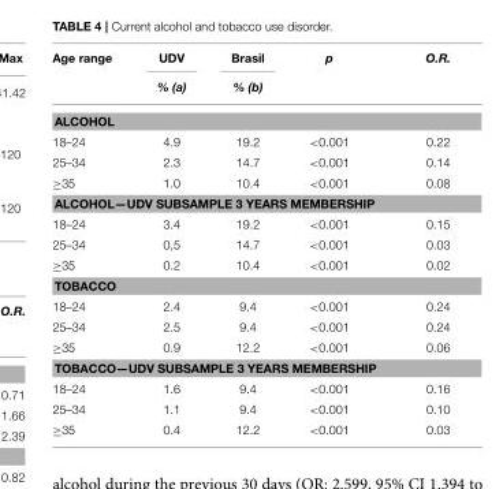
<table><thead><tr><td rowspan="2">Age range</td><td rowspan="2">UDV % (a)</td><td rowspan="2">Brasil % (b)</td><td rowspan="2">p</td><td rowspan="2">O.R.</td></tr><tr></tr></thead><tbody><tr><td colspan="5">ALCOHOL</td></tr><tr><td>18–24</td><td>4.9</td><td>19.2</td><td>&lt;0.001</td><td>0.22</td></tr><tr><td>25–34</td><td>2.3</td><td>14.7</td><td>&lt;0.001</td><td>0.14</td></tr><tr><td>≥35</td><td>1.0</td><td>10.4</td><td>&lt;0.001</td><td>0.08</td></tr><tr><td colspan="5">ALCOHOL—UDV SUBSAMPLE 3 YEARS MEMBERSHIP</td></tr><tr><td>18–24</td><td>3.4</td><td>19.2</td><td>&lt;0.001</td><td>0.15</td></tr><tr><td>25–34</td><td>0,5</td><td>14.7</td><td>&lt;0.001</td><td>0.03</td></tr><tr><td>≥35</td><td>0.2</td><td>10.4</td><td>&lt;0.001</td><td>0.02</td></tr><tr><td colspan="5">TOBACCO</td></tr><tr><td>18–24</td><td>2.4</td><td>9.4</td><td>&lt;0.001</td><td>0.24</td></tr><tr><td>25–34</td><td>2.5</td><td>9.4</td><td>&lt;0.001</td><td>0.24</td></tr><tr><td>≥35</td><td>0.9</td><td>12.2</td><td>&lt;0.001</td><td>0.06</td></tr><tr><td colspan="5">TOBACCO—UDV SUBSAMPLE 3 YEARS MEMBERSHIP</td></tr><tr><td>18–24</td><td>1.6</td><td>9.4</td><td>&lt;0.001</td><td>0.16</td></tr><tr><td>25–34</td><td>1.1</td><td>9.4</td><td>&lt;0.001</td><td>0.10</td></tr><tr><td>≥35</td><td>0.4</td><td>12.2</td><td>&lt;0.001</td><td>0.03</td></tr></tbody></table>